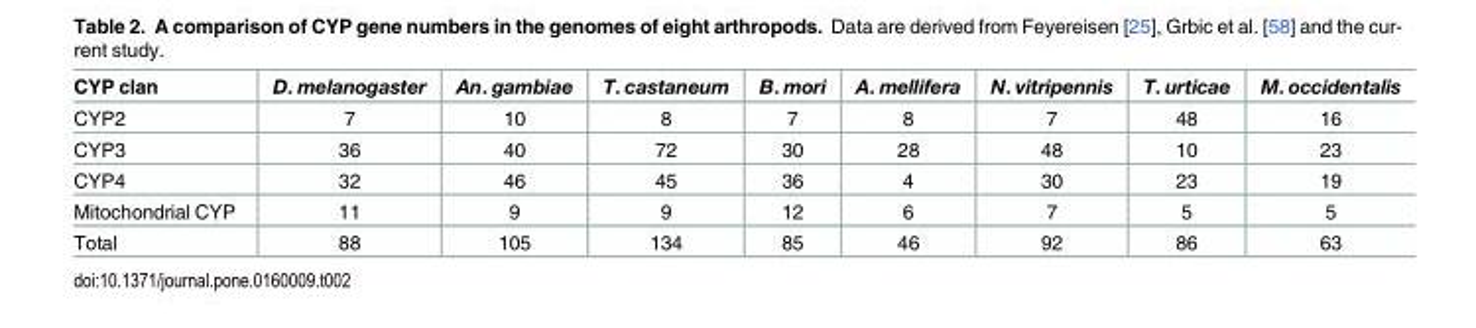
<table><thead><tr><td>CYP clan</td><td>D. melanogaster</td><td>An. gambiae</td><td>T. castaneum</td><td>B. mori</td><td>A. mellifera</td><td>N. vitripennis</td><td>T. urticae</td><td>M. occidentalis</td></tr></thead><tbody><tr><td>CYP2</td><td>7</td><td>10</td><td>8</td><td>7</td><td>8</td><td>7</td><td>48</td><td>16</td></tr><tr><td>CYP3</td><td>36</td><td>40</td><td>72</td><td>30</td><td>28</td><td>48</td><td>10</td><td>23</td></tr><tr><td>CYP4</td><td>32</td><td>46</td><td>45</td><td>36</td><td>4</td><td>30</td><td>23</td><td>19</td></tr><tr><td>Mitochondrial CYP</td><td>11</td><td>9</td><td>9</td><td>12</td><td>6</td><td>7</td><td>5</td><td>5</td></tr><tr><td>Total</td><td>88</td><td>105</td><td>134</td><td>85</td><td>46</td><td>92</td><td>86</td><td>63</td></tr></tbody></table>